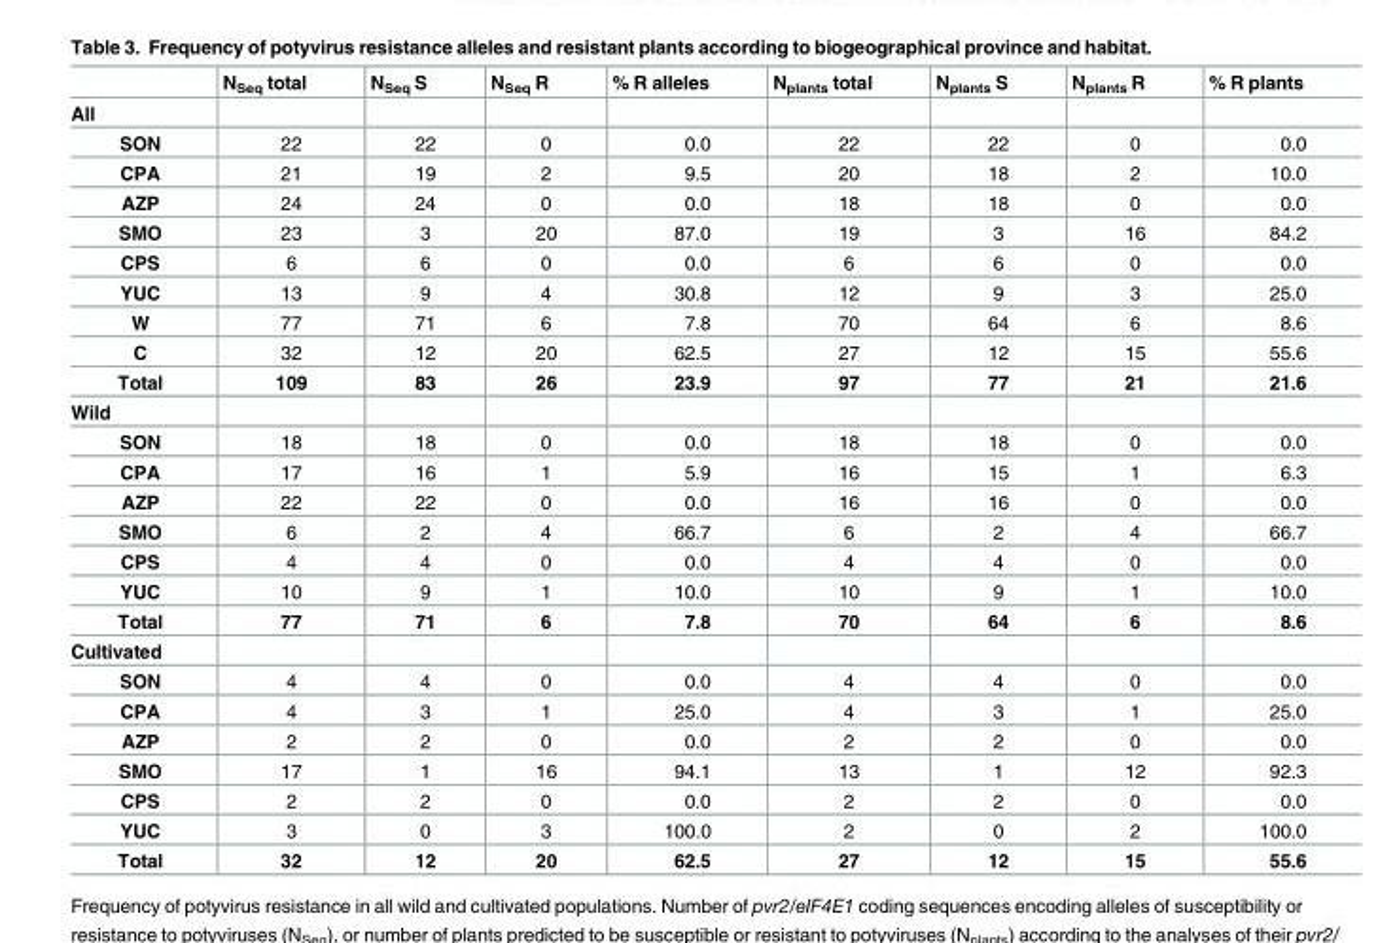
<table><thead><tr><td></td><td>N<sub>Seq</sub> total</td><td>N<sub>Seq</sub> S</td><td>N<sub>Seq</sub> R</td><td>% R alleles</td><td>N<sub>plants</sub> total</td><td>N<sub>plants</sub> S</td><td>N<sub>plants</sub> R</td><td>% R plants</td></tr></thead><tbody><tr><td colspan="9">All</td></tr><tr><td>SON</td><td>22</td><td>22</td><td>0</td><td>0.0</td><td>22</td><td>22</td><td>0</td><td>0.0</td></tr><tr><td>CPA</td><td>21</td><td>19</td><td>2</td><td>9.5</td><td>20</td><td>18</td><td>2</td><td>10.0</td></tr><tr><td>AZP</td><td>24</td><td>24</td><td>0</td><td>0.0</td><td>18</td><td>18</td><td>0</td><td>0.0</td></tr><tr><td>SMO</td><td>23</td><td>3</td><td>20</td><td>87.0</td><td>19</td><td>3</td><td>16</td><td>84.2</td></tr><tr><td>CPS</td><td>6</td><td>6</td><td>0</td><td>0.0</td><td>6</td><td>6</td><td>0</td><td>0.0</td></tr><tr><td>YUC</td><td>13</td><td>9</td><td>4</td><td>30.8</td><td>12</td><td>9</td><td>3</td><td>25.0</td></tr><tr><td>W</td><td>77</td><td>71</td><td>6</td><td>7.8</td><td>70</td><td>64</td><td>6</td><td>8.6</td></tr><tr><td>C</td><td>32</td><td>12</td><td>20</td><td>62.5</td><td>27</td><td>12</td><td>15</td><td>55.6</td></tr><tr><td>Total</td><td>109</td><td>83</td><td>26</td><td>23.9</td><td>97</td><td>77</td><td>21</td><td>21.6</td></tr><tr><td colspan="9">Wild</td></tr><tr><td>SON</td><td>18</td><td>18</td><td>0</td><td>0.0</td><td>18</td><td>18</td><td>0</td><td>0.0</td></tr><tr><td>CPA</td><td>17</td><td>16</td><td>1</td><td>5.9</td><td>16</td><td>15</td><td>1</td><td>6.3</td></tr><tr><td>AZP</td><td>22</td><td>22</td><td>0</td><td>0.0</td><td>16</td><td>16</td><td>0</td><td>0.0</td></tr><tr><td>SMO</td><td>6</td><td>2</td><td>4</td><td>66.7</td><td>6</td><td>2</td><td>4</td><td>66.7</td></tr><tr><td>CPS</td><td>4</td><td>4</td><td>0</td><td>0.0</td><td>4</td><td>4</td><td>0</td><td>0.0</td></tr><tr><td>YUC</td><td>10</td><td>9</td><td>1</td><td>10.0</td><td>10</td><td>9</td><td>1</td><td>10.0</td></tr><tr><td>Total</td><td>77</td><td>71</td><td>6</td><td>7.8</td><td>70</td><td>64</td><td>6</td><td>8.6</td></tr><tr><td colspan="9">Cultivated</td></tr><tr><td>SON</td><td>4</td><td>4</td><td>0</td><td>0.0</td><td>4</td><td>4</td><td>0</td><td>0.0</td></tr><tr><td>CPA</td><td>4</td><td>3</td><td>1</td><td>25.0</td><td>4</td><td>3</td><td>1</td><td>25.0</td></tr><tr><td>AZP</td><td>2</td><td>2</td><td>0</td><td>0.0</td><td>2</td><td>2</td><td>0</td><td>0.0</td></tr><tr><td>SMO</td><td>17</td><td>1</td><td>16</td><td>94.1</td><td>13</td><td>1</td><td>12</td><td>92.3</td></tr><tr><td>CPS</td><td>2</td><td>2</td><td>0</td><td>0.0</td><td>2</td><td>2</td><td>0</td><td>0.0</td></tr><tr><td>YUC</td><td>3</td><td>0</td><td>3</td><td>100.0</td><td>2</td><td>0</td><td>2</td><td>100.0</td></tr><tr><td>Total</td><td>32</td><td>12</td><td>20</td><td>62.5</td><td>27</td><td>12</td><td>15</td><td>55.6</td></tr></tbody></table>